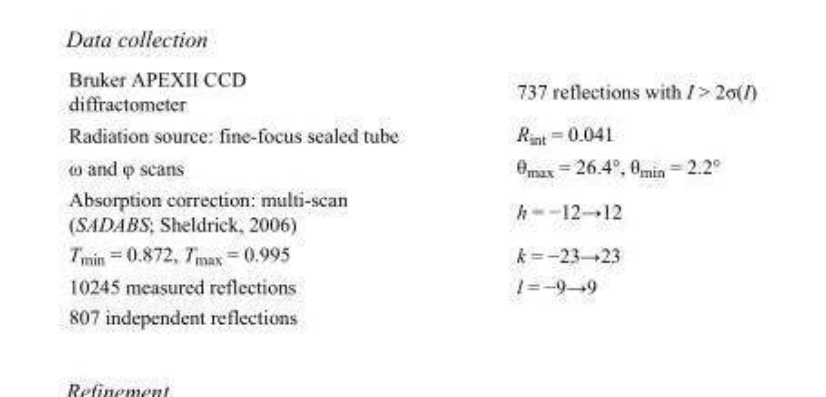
<table><tbody><tr><td>Bruker APEXII CCD diffractometer</td><td>737 reflections with I &gt; 2σ(I)</td></tr><tr><td>Radiation source: fine-focus sealed tube</td><td>R<sub>int</sub> = 0.041</td></tr><tr><td>ω and φ scans</td><td>θ<sub>max</sub> = 26.4°, θ<sub>min</sub> = 2.2°</td></tr><tr><td>Absorption correction: multi-scan (SADABS; Sheldrick, 2006)</td><td>h = −12→12</td></tr><tr><td>T<sub>min</sub> = 0.872, T<sub>max</sub> = 0.995</td><td>k = −23→23</td></tr><tr><td>10245 measured reflections</td><td>l = −9→9</td></tr><tr><td>807 independent reflections</td><td></td></tr></tbody></table>